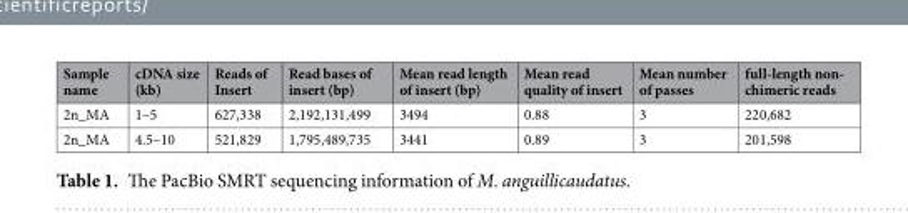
<table><thead><tr><td>Sample name</td><td>cDNA size (kb)</td><td>Reads of Insert</td><td>Read bases of insert (bp)</td><td>Mean read length of insert (bp)</td><td>Mean read quality of insert</td><td>Mean number of passes</td><td>full-length non- chimeric reads</td></tr></thead><tbody><tr><td>2n_MA</td><td>1–5</td><td>627,338</td><td>2,192,131,499</td><td>3494</td><td>0.88</td><td>3</td><td>220,682</td></tr><tr><td>2n_MA</td><td>4.5–10</td><td>521,829</td><td>1,795,489,735</td><td>3441</td><td>0.89</td><td>3</td><td>201,598</td></tr></tbody></table>